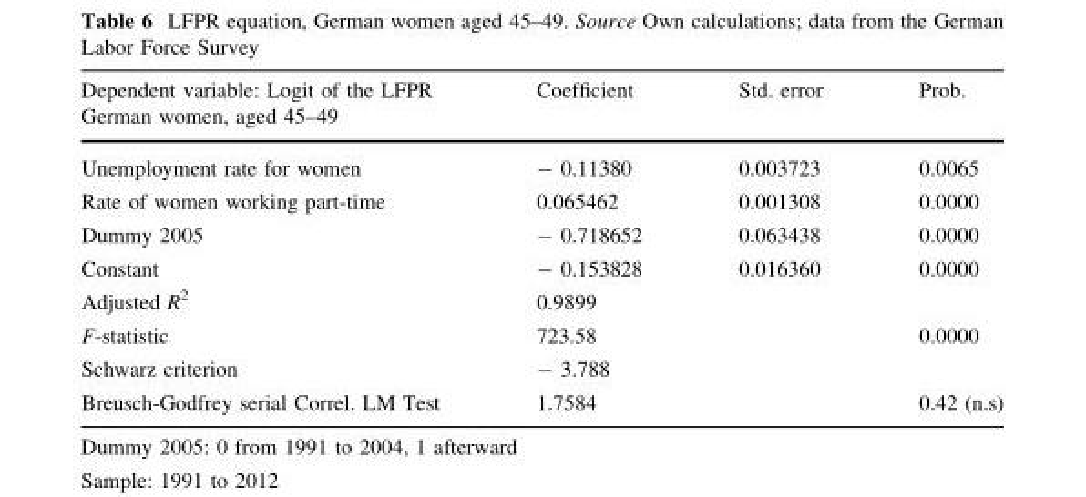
<table><thead><tr><td>Dependent variable: Logit of the LFPR German women, aged 45–49</td><td>Coefficient</td><td>Std. error</td><td>Prob.</td></tr></thead><tbody><tr><td>Unemployment rate for women</td><td>- 0.11380</td><td>0.003723</td><td>0.0065</td></tr><tr><td>Rate of women working part-time</td><td>0.065462</td><td>0.001308</td><td>0.0000</td></tr><tr><td>Dummy 2005</td><td>- 0.718652</td><td>0.063438</td><td>0.0000</td></tr><tr><td>Constant</td><td>- 0.153828</td><td>0.016360</td><td>0.0000</td></tr><tr><td>Adjusted R<sup>2</sup></td><td>0.9899</td><td></td><td></td></tr><tr><td>F-statistic</td><td>723.58</td><td></td><td>0.0000</td></tr><tr><td>Schwarz criterion</td><td>- 3.788</td><td></td><td></td></tr><tr><td>Breusch-Godfrey serial Correl. LM Test</td><td>1.7584</td><td></td><td>0.42 (n.s)</td></tr></tbody></table>